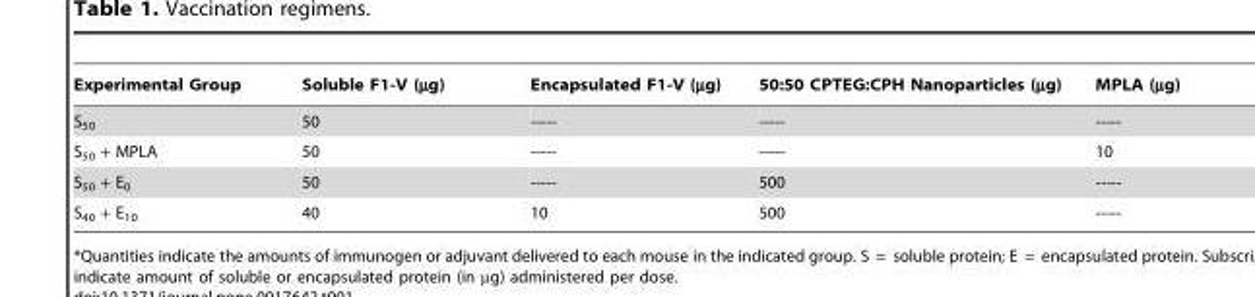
<table><thead><tr><td>Experimental Group</td><td>Soluble F1-V (µg)</td><td>Encapsulated F1-V (µg)</td><td>50:50 CPTEG:CPH Nanoparticles (µg)</td><td>MPLA (µg)</td></tr></thead><tbody><tr><td>S<sub>50</sub></td><td>50</td><td>-----</td><td>-----</td><td>-----</td></tr><tr><td>S<sub>50</sub> + MPLA</td><td>50</td><td>-----</td><td>-----</td><td>10</td></tr><tr><td>S<sub>50</sub> + E<sub>0</sub></td><td>50</td><td>-----</td><td>500</td><td>-----</td></tr><tr><td>S<sub>40</sub> + E<sub>10</sub></td><td>40</td><td>10</td><td>500</td><td>-----</td></tr></tbody></table>